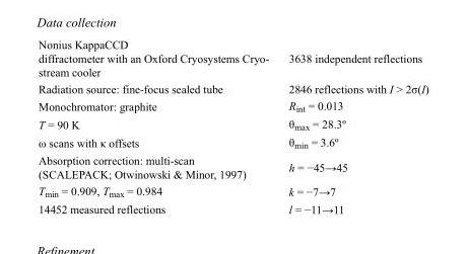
<table><tbody><tr><td>Nonius KappaCCD diffractometer with an Oxford Cryosystems Cryo- stream cooler</td><td>3638 independent reflections</td></tr><tr><td>Radiation source: fine-focus sealed tube</td><td>2846 reflections with I &gt; 2σ(I)</td></tr><tr><td>Monochromator: graphite</td><td>R<sub>int</sub> = 0.013</td></tr><tr><td>T = 90 K</td><td>θ<sub>max</sub> = 28.3º</td></tr><tr><td>ω scans with κ offsets</td><td>θ<sub>min</sub> = 3.6º</td></tr><tr><td>Absorption correction: multi-scan (SCALEPACK; Otwinowski &amp; Minor, 1997)</td><td>h = −45→45</td></tr><tr><td>T<sub>min</sub> = 0.909, T<sub>max</sub> = 0.984</td><td>k = −7→7</td></tr><tr><td>14452 measured reflections</td><td>l = −11→11</td></tr></tbody></table>